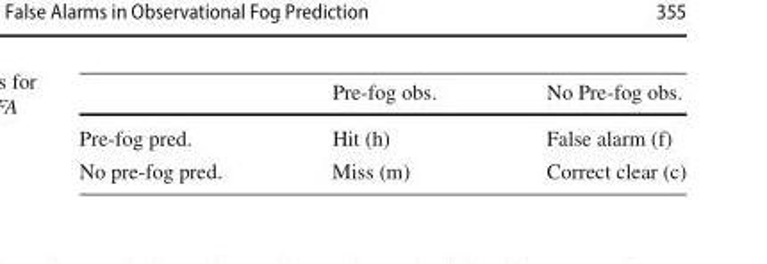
<table><thead><tr><td></td><td>Pre-fog obs.</td><td>No Pre-fog obs.</td></tr></thead><tbody><tr><td>Pre-fog pred.</td><td>Hit (h)</td><td>False alarm (f)</td></tr><tr><td>No pre-fog pred.</td><td>Miss (m)</td><td>Correct clear (c)</td></tr></tbody></table>